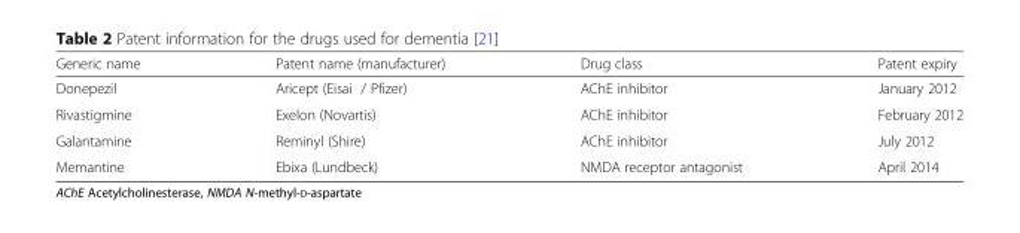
<table><thead><tr><td>Generic name</td><td>Patent name (manufacturer)</td><td>Drug class</td><td>Patent expiry</td></tr></thead><tbody><tr><td>Donepezil</td><td>Aricept (Eisai / Pfizer)</td><td>AChE inhibitor</td><td>January 2012</td></tr><tr><td>Rivastigmine</td><td>Exelon (Novartis)</td><td>AChE inhibitor</td><td>February 2012</td></tr><tr><td>Galantamine</td><td>Reminyl (Shire)</td><td>AChE inhibitor</td><td>July 2012</td></tr><tr><td>Memantine</td><td>Ebixa (Lundbeck)</td><td>NMDA receptor antagonist</td><td>April 2014</td></tr></tbody></table>